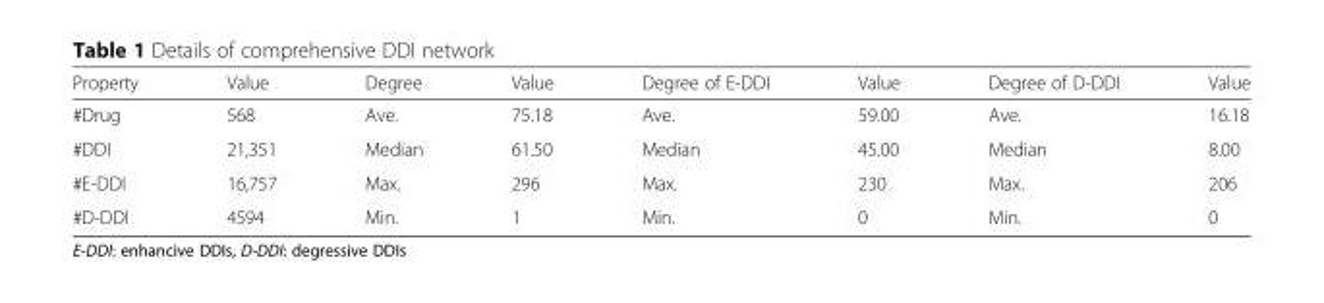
<table><thead><tr><td>Property</td><td>Value</td><td>Degree</td><td>Value</td><td>Degree of E-DDI</td><td>Value</td><td>Degree of D-DDI</td><td>Value</td></tr></thead><tbody><tr><td>#Drug</td><td>568</td><td>Ave.</td><td>75.18</td><td>Ave.</td><td>59.00</td><td>Ave.</td><td>16.18</td></tr><tr><td>#DDI</td><td>21,351</td><td>Median</td><td>61.50</td><td>Median</td><td>45.00</td><td>Median</td><td>8.00</td></tr><tr><td>#E-DDI</td><td>16,757</td><td>Max.</td><td>296</td><td>Max.</td><td>230</td><td>Max.</td><td>206</td></tr><tr><td>#D-DDI</td><td>4594</td><td>Min.</td><td>1</td><td>Min.</td><td>0</td><td>Min.</td><td>0</td></tr></tbody></table>